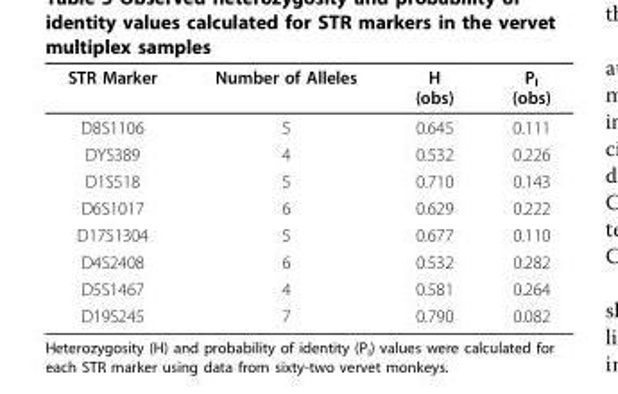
<table><thead><tr><td>STR Marker</td><td>Number of Alleles</td><td>H (obs)</td><td>P<sub>I</sub> (obs)</td></tr></thead><tbody><tr><td>D8S1106</td><td>5</td><td>0.645</td><td>0.111</td></tr><tr><td>DYS389</td><td>4</td><td>0.532</td><td>0.226</td></tr><tr><td>D1S518</td><td>5</td><td>0.710</td><td>0.143</td></tr><tr><td>D6S1017</td><td>6</td><td>0.629</td><td>0.222</td></tr><tr><td>D17S1304</td><td>5</td><td>0.677</td><td>0.110</td></tr><tr><td>D4S2408</td><td>6</td><td>0.532</td><td>0.282</td></tr><tr><td>D5S1467</td><td>4</td><td>0.581</td><td>0.264</td></tr><tr><td>D19S245</td><td>7</td><td>0.790</td><td>0.082</td></tr></tbody></table>